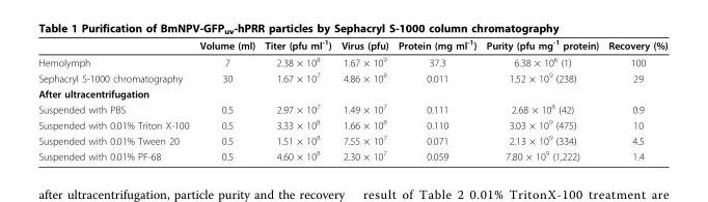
<table><thead><tr><td></td><td>Volume (ml)</td><td>Titer (pfu ml<sup>-1</sup>)</td><td>Virus (pfu)</td><td>Protein (mg ml<sup>-1</sup>)</td><td>Purity (pfu mg<sup>-1</sup> protein)</td><td>Recovery (%)</td></tr></thead><tbody><tr><td>Hemolymph</td><td>7</td><td>2.38 × 10<sup>8</sup></td><td>1.67 × 10<sup>9</sup></td><td>37.3</td><td>6.38 × 10<sup>6</sup> (1)</td><td>100</td></tr><tr><td>Sephacryl S-1000 chromatography</td><td>30</td><td>1.67 × 10<sup>7</sup></td><td>4.86 × 10<sup>8</sup></td><td>0.011</td><td>1.52 × 10<sup>9</sup> (238)</td><td>29</td></tr><tr><td colspan="7">After ultracentrifugation</td></tr><tr><td>Suspended with PBS</td><td>0.5</td><td>2.97 × 10<sup>7</sup></td><td>1.49 × 10<sup>7</sup></td><td>0.111</td><td>2.68 × 10<sup>8</sup> (42)</td><td>0.9</td></tr><tr><td>Suspended with 0.01% Triton X-100</td><td>0.5</td><td>3.33 × 10<sup>8</sup></td><td>1.66 × 10<sup>8</sup></td><td>0.110</td><td>3.03 × 10<sup>9</sup> (475)</td><td>10</td></tr><tr><td>Suspended with 0.01% Tween 20</td><td>0.5</td><td>1.51 × 10<sup>8</sup></td><td>7.55 × 10<sup>7</sup></td><td>0.071</td><td>2.13 × 10<sup>9</sup> (334)</td><td>4.5</td></tr><tr><td>Suspended with 0.01% PF-68</td><td>0.5</td><td>4.60 × 10<sup>8</sup></td><td>2.30 × 10<sup>7</sup></td><td>0.059</td><td>7.80 × 10<sup>9</sup> (1,222)</td><td>1.4</td></tr></tbody></table>